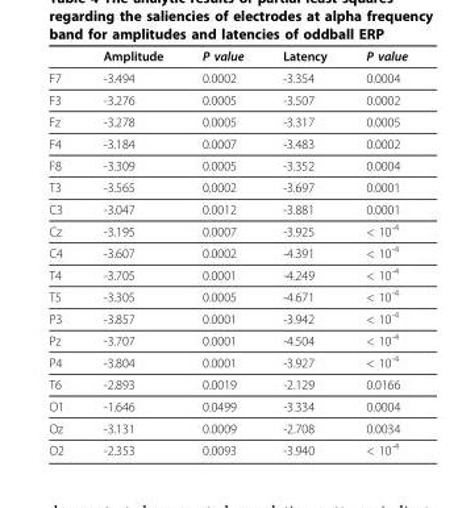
<table><thead><tr><td></td><td>Amplitude</td><td>P value</td><td>Latency</td><td>P value</td></tr></thead><tbody><tr><td>F7</td><td>-3.494</td><td>0.0002</td><td>-3.354</td><td>0.0004</td></tr><tr><td>F3</td><td>-3.276</td><td>0.0005</td><td>-3.507</td><td>0.0002</td></tr><tr><td>Fz</td><td>-3.278</td><td>0.0005</td><td>-3.317</td><td>0.0005</td></tr><tr><td>F4</td><td>-3.184</td><td>0.0007</td><td>-3.483</td><td>0.0002</td></tr><tr><td>F8</td><td>-3.309</td><td>0.0005</td><td>-3.352</td><td>0.0004</td></tr><tr><td>T3</td><td>-3.565</td><td>0.0002</td><td>-3.697</td><td>0.0001</td></tr><tr><td>C3</td><td>-3.047</td><td>0.0012</td><td>-3.881</td><td>0.0001</td></tr><tr><td>Cz</td><td>-3.195</td><td>0.0007</td><td>-3.925</td><td>&lt; 10<sup>-4</sup></td></tr><tr><td>C4</td><td>-3.607</td><td>0.0002</td><td>-4.391</td><td>&lt; 10<sup>-4</sup></td></tr><tr><td>T4</td><td>-3.705</td><td>0.0001</td><td>-4.249</td><td>&lt; 10<sup>-4</sup></td></tr><tr><td>T5</td><td>-3.305</td><td>0.0005</td><td>-4.671</td><td>&lt; 10<sup>-4</sup></td></tr><tr><td>P3</td><td>-3.857</td><td>0.0001</td><td>-3.942</td><td>&lt; 10<sup>-4</sup></td></tr><tr><td>Pz</td><td>-3.707</td><td>0.0001</td><td>-4.504</td><td>&lt; 10<sup>-4</sup></td></tr><tr><td>P4</td><td>-3.804</td><td>0.0001</td><td>-3.927</td><td>&lt; 10<sup>-4</sup></td></tr><tr><td>T6</td><td>-2.893</td><td>0.0019</td><td>-2.129</td><td>0.0166</td></tr><tr><td>O1</td><td>-1.646</td><td>0.0499</td><td>-3.334</td><td>0.0004</td></tr><tr><td>Oz</td><td>-3.131</td><td>0.0009</td><td>-2.708</td><td>0.0034</td></tr><tr><td>O2</td><td>-2.353</td><td>0.0093</td><td>-3.940</td><td>&lt; 10<sup>-4</sup></td></tr></tbody></table>